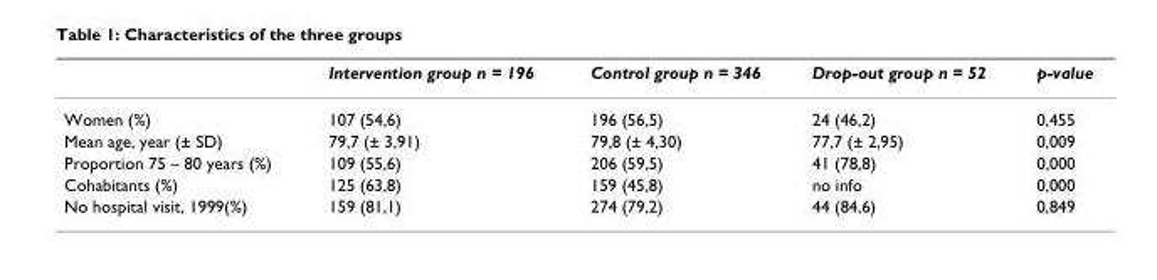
<table><thead><tr><td></td><td>Intervention group n = 196</td><td>Control group n = 346</td><td>Drop-out group n = 52</td><td>p-value</td></tr></thead><tbody><tr><td>Women (%)</td><td>107 (54,6)</td><td>196 (56,5)</td><td>24 (46,2)</td><td>0,455</td></tr><tr><td>Mean age, year (± SD)</td><td>79,7 (± 3,91)</td><td>79,8 (± 4,30)</td><td>77,7 (± 2,95)</td><td>0,009</td></tr><tr><td>Proportion 75 – 80 years (%)</td><td>109 (55,6)</td><td>206 (59,5)</td><td>41 (78,8)</td><td>0,000</td></tr><tr><td>Cohabitants (%)</td><td>125 (63,8)</td><td>159 (45,8)</td><td>no info</td><td>0,000</td></tr><tr><td>No hospital visit, 1999(%)</td><td>159 (81,1)</td><td>274 (79,2)</td><td>44 (84,6)</td><td>0,849</td></tr></tbody></table>